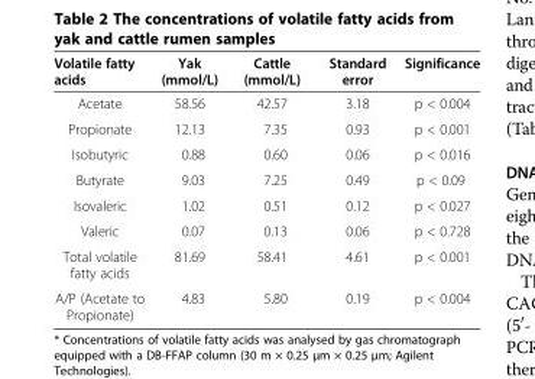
<table><thead><tr><td>Volatile fatty acids</td><td>Yak (mmol/L)</td><td>Cattle (mmol/L)</td><td>Standard error</td><td>Significance</td></tr></thead><tbody><tr><td>Acetate</td><td>58.56</td><td>42.57</td><td>3.18</td><td>p &lt; 0.004</td></tr><tr><td>Propionate</td><td>12.13</td><td>7.35</td><td>0.93</td><td>p &lt; 0.001</td></tr><tr><td>Isobutyric</td><td>0.88</td><td>0.60</td><td>0.06</td><td>p &lt; 0.016</td></tr><tr><td>Butyrate</td><td>9.03</td><td>7.25</td><td>0.49</td><td>p &lt; 0.09</td></tr><tr><td>Isovaleric</td><td>1.02</td><td>0.51</td><td>0.12</td><td>p &lt; 0.027</td></tr><tr><td>Valeric</td><td>0.07</td><td>0.13</td><td>0.06</td><td>p &lt; 0.728</td></tr><tr><td>Total volatile fatty acids</td><td>81.69</td><td>58.41</td><td>4.61</td><td>p &lt; 0.001</td></tr><tr><td>A/P (Acetate to Propionate)</td><td>4.83</td><td>5.80</td><td>0.19</td><td>p &lt; 0.004</td></tr></tbody></table>